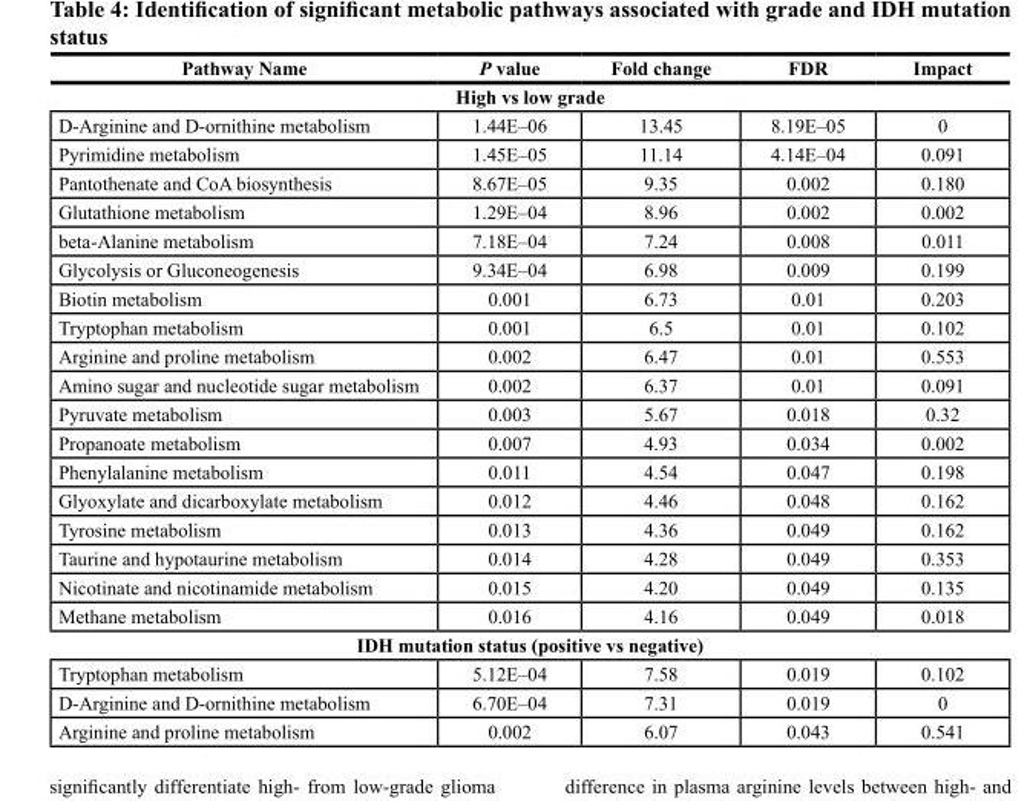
<table><thead><tr><td>Pathway Name</td><td>P value</td><td>Fold change</td><td>FDR</td><td>Impact</td></tr></thead><tbody><tr><td colspan="5">High vs low grade</td></tr><tr><td>D-Arginine and D-ornithine metabolism</td><td>1.44E–06</td><td>13.45</td><td>8.19E–05</td><td>0</td></tr><tr><td>Pyrimidine metabolism</td><td>1.45E–05</td><td>11.14</td><td>4.14E–04</td><td>0.091</td></tr><tr><td>Pantothenate and CoA biosynthesis</td><td>8.67E–05</td><td>9.35</td><td>0.002</td><td>0.180</td></tr><tr><td>Glutathione metabolism</td><td>1.29E–04</td><td>8.96</td><td>0.002</td><td>0.002</td></tr><tr><td>beta-Alanine metabolism</td><td>7.18E–04</td><td>7.24</td><td>0.008</td><td>0.011</td></tr><tr><td>Glycolysis or Gluconeogenesis</td><td>9.34E–04</td><td>6.98</td><td>0.009</td><td>0.199</td></tr><tr><td>Biotin metabolism</td><td>0.001</td><td>6.73</td><td>0.01</td><td>0.203</td></tr><tr><td>Tryptophan metabolism</td><td>0.001</td><td>6.5</td><td>0.01</td><td>0.102</td></tr><tr><td>Arginine and proline metabolism</td><td>0.002</td><td>6.47</td><td>0.01</td><td>0.553</td></tr><tr><td>Amino sugar and nucleotide sugar metabolism</td><td>0.002</td><td>6.37</td><td>0.01</td><td>0.091</td></tr><tr><td>Pyruvate metabolism</td><td>0.003</td><td>5.67</td><td>0.018</td><td>0.32</td></tr><tr><td>Propanoate metabolism</td><td>0.007</td><td>4.93</td><td>0.034</td><td>0.002</td></tr><tr><td>Phenylalanine metabolism</td><td>0.011</td><td>4.54</td><td>0.047</td><td>0.198</td></tr><tr><td>Glyoxylate and dicarboxylate metabolism</td><td>0.012</td><td>4.46</td><td>0.048</td><td>0.162</td></tr><tr><td>Tyrosine metabolism</td><td>0.013</td><td>4.36</td><td>0.049</td><td>0.162</td></tr><tr><td>Taurine and hypotaurine metabolism</td><td>0.014</td><td>4.28</td><td>0.049</td><td>0.353</td></tr><tr><td>Nicotinate and nicotinamide metabolism</td><td>0.015</td><td>4.20</td><td>0.049</td><td>0.135</td></tr><tr><td>Methane metabolism</td><td>0.016</td><td>4.16</td><td>0.049</td><td>0.018</td></tr><tr><td colspan="5">IDH mutation status (positive vs negative)</td></tr><tr><td>Tryptophan metabolism</td><td>5.12E–04</td><td>7.58</td><td>0.019</td><td>0.102</td></tr><tr><td>D-Arginine and D-ornithine metabolism</td><td>6.70E–04</td><td>7.31</td><td>0.019</td><td>0</td></tr><tr><td>Arginine and proline metabolism</td><td>0.002</td><td>6.07</td><td>0.043</td><td>0.541</td></tr></tbody></table>